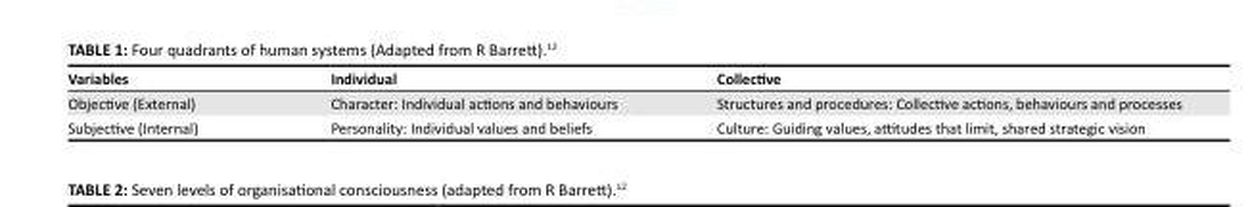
<table><thead><tr><td>Variables</td><td>Individual</td><td>Collective</td></tr></thead><tbody><tr><td>Objective (External)</td><td>Character: Individual actions and behaviours</td><td>Structures and procedures: Collective actions, behaviours and processes</td></tr><tr><td>Subjective (Internal)</td><td>Personality: Individual values and beliefs</td><td>Culture: Guiding values, attitudes that limit, shared strategic vision</td></tr></tbody></table>